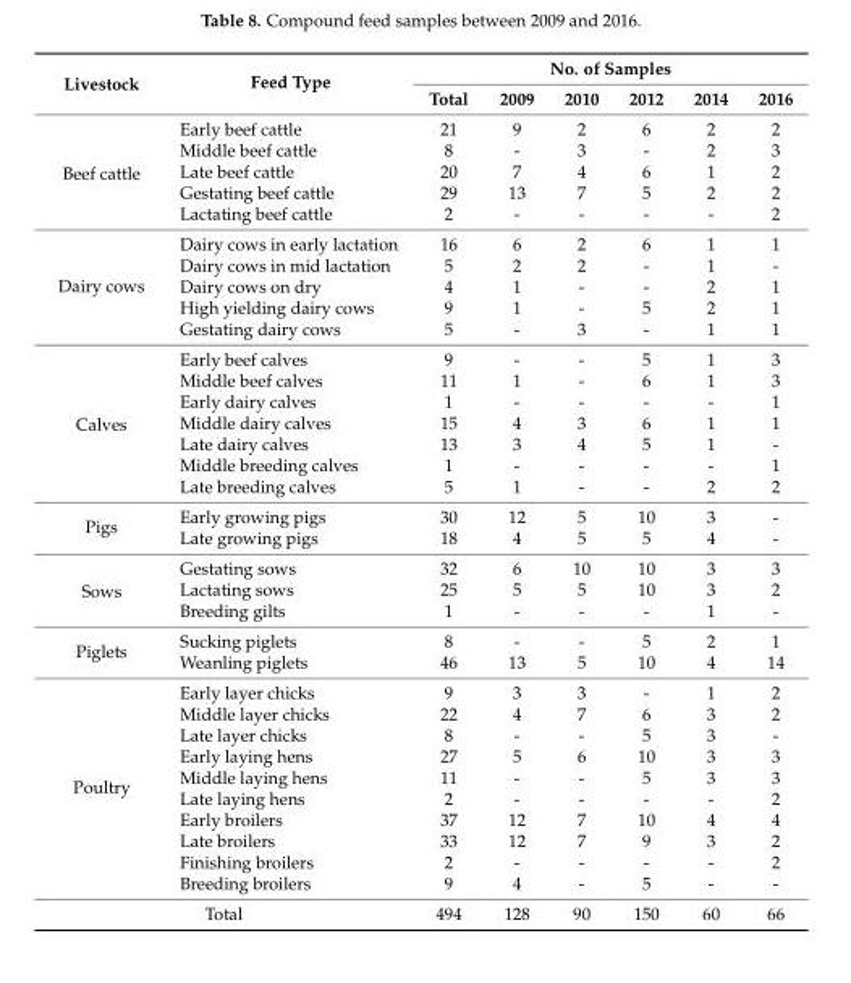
<table><thead><tr><td rowspan="2">Livestock</td><td rowspan="2">Feed Type</td><td colspan="6">No. of Samples</td></tr><tr><td>Total</td><td>2009</td><td>2010</td><td>2012</td><td>2014</td><td>2016</td></tr></thead><tbody><tr><td rowspan="5">Beef cattle</td><td>Early beef cattle</td><td>21</td><td>9</td><td>2</td><td>6</td><td>2</td><td>2</td></tr><tr><td>Middle beef cattle</td><td>8</td><td>-</td><td>3</td><td>-</td><td>2</td><td>3</td></tr><tr><td>Late beef cattle</td><td>20</td><td>7</td><td>4</td><td>6</td><td>1</td><td>2</td></tr><tr><td>Gestating beef cattle</td><td>29</td><td>13</td><td>7</td><td>5</td><td>2</td><td>2</td></tr><tr><td>Lactating beef cattle</td><td>2</td><td>-</td><td>-</td><td>-</td><td>-</td><td>2</td></tr><tr><td rowspan="5">Dairy cows</td><td>Dairy cows in early lactation</td><td>16</td><td>6</td><td>2</td><td>6</td><td>1</td><td>1</td></tr><tr><td>Dairy cows in mid lactation</td><td>5</td><td>2</td><td>2</td><td>-</td><td>1</td><td>-</td></tr><tr><td>Dairy cows on dry</td><td>4</td><td>1</td><td>-</td><td>-</td><td>2</td><td>1</td></tr><tr><td>High yielding dairy cows</td><td>9</td><td>1</td><td>-</td><td>5</td><td>2</td><td>1</td></tr><tr><td>Gestating dairy cows</td><td>5</td><td>-</td><td>3</td><td>-</td><td>1</td><td>1</td></tr><tr><td rowspan="7">Calves</td><td>Early beef calves</td><td>9</td><td>-</td><td>-</td><td>5</td><td>1</td><td>3</td></tr><tr><td>Middle beef calves</td><td>11</td><td>1</td><td>-</td><td>6</td><td>1</td><td>3</td></tr><tr><td>Early dairy calves</td><td>1</td><td>-</td><td>-</td><td>-</td><td>-</td><td>1</td></tr><tr><td>Middle dairy calves</td><td>15</td><td>4</td><td>3</td><td>6</td><td>1</td><td>1</td></tr><tr><td>Late dairy calves</td><td>13</td><td>3</td><td>4</td><td>5</td><td>1</td><td>-</td></tr><tr><td>Middle breeding calves</td><td>1</td><td>-</td><td>-</td><td>-</td><td>-</td><td>1</td></tr><tr><td>Late breeding calves</td><td>5</td><td>1</td><td>-</td><td>-</td><td>2</td><td>2</td></tr><tr><td rowspan="2">Pigs</td><td>Early growing pigs</td><td>30</td><td>12</td><td>5</td><td>10</td><td>3</td><td>-</td></tr><tr><td>Late growing pigs</td><td>18</td><td>4</td><td>5</td><td>5</td><td>4</td><td>-</td></tr><tr><td rowspan="3">Sows</td><td>Gestating sows</td><td>32</td><td>6</td><td>10</td><td>10</td><td>3</td><td>3</td></tr><tr><td>Lactating sows</td><td>25</td><td>5</td><td>5</td><td>10</td><td>3</td><td>2</td></tr><tr><td>Breeding gilts</td><td>1</td><td>-</td><td>-</td><td>-</td><td>1</td><td>-</td></tr><tr><td rowspan="2">Piglets</td><td>Sucking piglets</td><td>8</td><td>-</td><td>-</td><td>5</td><td>2</td><td>1</td></tr><tr><td>Weanling piglets</td><td>46</td><td>13</td><td>5</td><td>10</td><td>4</td><td>14</td></tr><tr><td rowspan="10">Poultry</td><td>Early layer chicks</td><td>9</td><td>3</td><td>3</td><td>-</td><td>1</td><td>2</td></tr><tr><td>Middle layer chicks</td><td>22</td><td>4</td><td>7</td><td>6</td><td>3</td><td>2</td></tr><tr><td>Late layer chicks</td><td>8</td><td>-</td><td>-</td><td>5</td><td>3</td><td>-</td></tr><tr><td>Early laying hens</td><td>27</td><td>5</td><td>6</td><td>10</td><td>3</td><td>3</td></tr><tr><td>Middle laying hens</td><td>11</td><td>-</td><td>-</td><td>5</td><td>3</td><td>3</td></tr><tr><td>Late laying hens</td><td>2</td><td>-</td><td>-</td><td>-</td><td>-</td><td>2</td></tr><tr><td>Early broilers</td><td>37</td><td>12</td><td>7</td><td>10</td><td>4</td><td>4</td></tr><tr><td>Late broilers</td><td>33</td><td>12</td><td>7</td><td>9</td><td>3</td><td>2</td></tr><tr><td>Finishing broilers</td><td>2</td><td>-</td><td>-</td><td>-</td><td>-</td><td>2</td></tr><tr><td>Breeding broilers</td><td>9</td><td>4</td><td>-</td><td>5</td><td>-</td><td>-</td></tr><tr><td colspan="2">Total</td><td>494</td><td>128</td><td>90</td><td>150</td><td>60</td><td>66</td></tr></tbody></table>